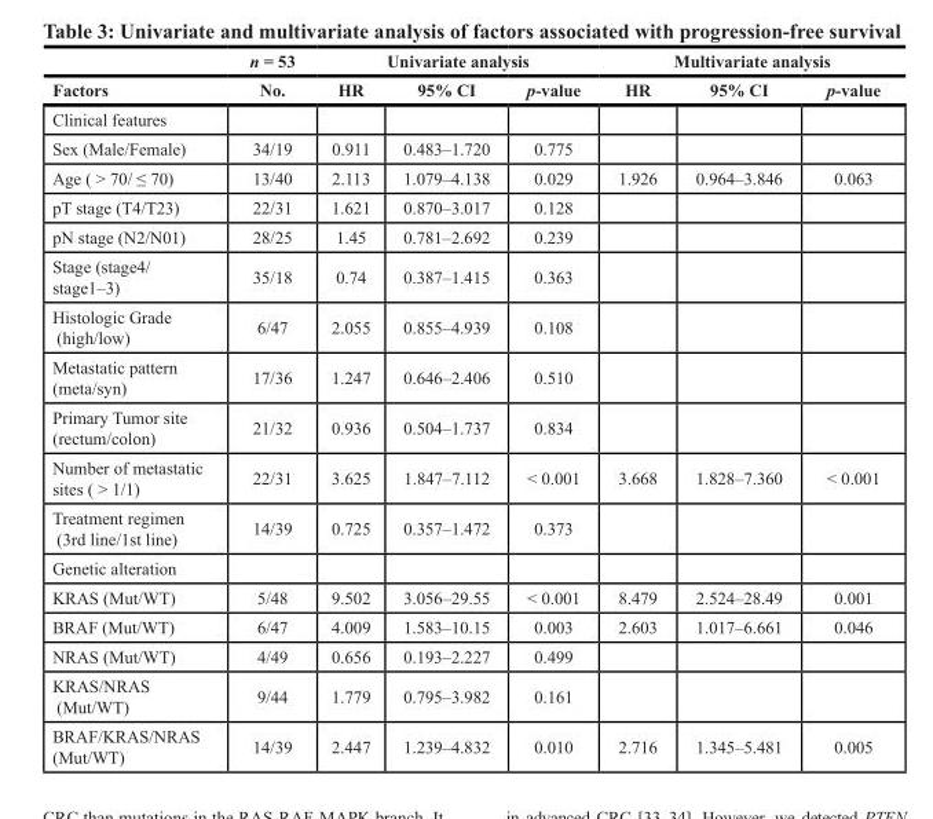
<table><thead><tr><td rowspan="2">Factors</td><td rowspan="2">n = 53 No.</td><td colspan="3">Univariate analysis</td><td colspan="3">Multivariate analysis</td></tr><tr><td>HR</td><td>95% CI</td><td>p-value</td><td>HR</td><td>95% CI</td><td>p-value</td></tr></thead><tbody><tr><td colspan="8">Clinical features</td></tr><tr><td>Sex (Male/Female)</td><td>34/19</td><td>0.911</td><td>0.483–1.720</td><td>0.775</td><td></td><td></td><td></td></tr><tr><td>Age ( &gt; 70/ ≤ 70)</td><td>13/40</td><td>2.113</td><td>1.079–4.138</td><td>0.029</td><td>1.926</td><td>0.964–3.846</td><td>0.063</td></tr><tr><td>pT stage (T4/T23)</td><td>22/31</td><td>1.621</td><td>0.870–3.017</td><td>0.128</td><td></td><td></td><td></td></tr><tr><td>pN stage (N2/N01)</td><td>28/25</td><td>1.45</td><td>0.781–2.692</td><td>0.239</td><td></td><td></td><td></td></tr><tr><td>Stage (stage4/ stage1–3)</td><td>35/18</td><td>0.74</td><td>0.387–1.415</td><td>0.363</td><td></td><td></td><td></td></tr><tr><td>Histologic Grade (high/low)</td><td>6/47</td><td>2.055</td><td>0.855–4.939</td><td>0.108</td><td></td><td></td><td></td></tr><tr><td>Metastatic pattern (meta/syn)</td><td>17/36</td><td>1.247</td><td>0.646–2.406</td><td>0.510</td><td></td><td></td><td></td></tr><tr><td>Primary Tumor site (rectum/colon)</td><td>21/32</td><td>0.936</td><td>0.504–1.737</td><td>0.834</td><td></td><td></td><td></td></tr><tr><td>Number of metastatic sites ( &gt; 1/1)</td><td>22/31</td><td>3.625</td><td>1.847–7.112</td><td>&lt; 0.001</td><td>3.668</td><td>1.828–7.360</td><td>&lt; 0.001</td></tr><tr><td>Treatment regimen (3rd line/1st line)</td><td>14/39</td><td>0.725</td><td>0.357–1.472</td><td>0.373</td><td></td><td></td><td></td></tr><tr><td colspan="8">Genetic alteration</td></tr><tr><td>KRAS (Mut/WT)</td><td>5/48</td><td>9.502</td><td>3.056–29.55</td><td>&lt; 0.001</td><td>8.479</td><td>2.524–28.49</td><td>0.001</td></tr><tr><td>BRAF (Mut/WT)</td><td>6/47</td><td>4.009</td><td>1.583–10.15</td><td>0.003</td><td>2.603</td><td>1.017–6.661</td><td>0.046</td></tr><tr><td>NRAS (Mut/WT)</td><td>4/49</td><td>0.656</td><td>0.193–2.227</td><td>0.499</td><td></td><td></td><td></td></tr><tr><td>KRAS/NRAS (Mut/WT)</td><td>9/44</td><td>1.779</td><td>0.795–3.982</td><td>0.161</td><td></td><td></td><td></td></tr><tr><td>BRAF/KRAS/NRAS (Mut/WT)</td><td>14/39</td><td>2.447</td><td>1.239–4.832</td><td>0.010</td><td>2.716</td><td>1.345–5.481</td><td>0.005</td></tr></tbody></table>